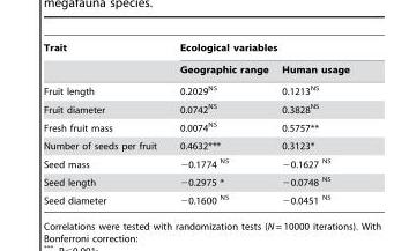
<table><thead><tr><td rowspan="2">Trait</td><td colspan="2">Ecological variables</td></tr><tr><td>Geographic range</td><td>Human usage</td></tr></thead><tbody><tr><td>Fruit length</td><td>0.2029<sup>NS</sup></td><td>0.1213<sup>NS</sup></td></tr><tr><td>Fruit diameter</td><td>0.0742<sup>NS</sup></td><td>0.3828<sup>NS</sup></td></tr><tr><td>Fresh fruit mass</td><td>0.0074<sup>NS</sup></td><td>0.5757**</td></tr><tr><td>Number of seeds per fruit</td><td>0.4632***</td><td>0.3123*</td></tr><tr><td>Seed mass</td><td>−0.1774 NS</td><td>−0.1627 NS</td></tr><tr><td>Seed length</td><td>−0.2975 *</td><td>−0.0748 NS</td></tr><tr><td>Seed diameter</td><td>−0.1600 NS</td><td>−0.0451 NS</td></tr></tbody></table>